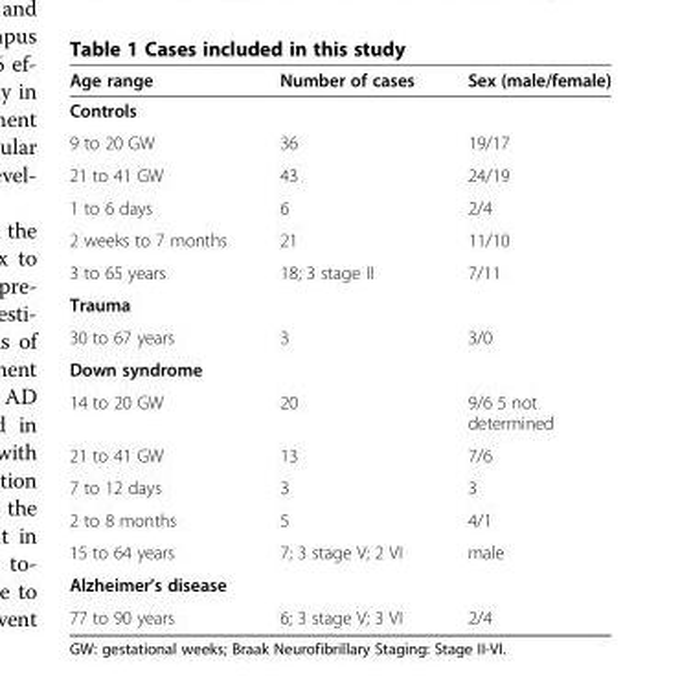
<table><thead><tr><td>Age range</td><td>Number of cases</td><td>Sex (male/female)</td></tr></thead><tbody><tr><td colspan="3">Controls</td></tr><tr><td>9 to 20 GW</td><td>36</td><td>19/17</td></tr><tr><td>21 to 41 GW</td><td>43</td><td>24/19</td></tr><tr><td>1 to 6 days</td><td>6</td><td>2/4</td></tr><tr><td>2 weeks to 7 months</td><td>21</td><td>11/10</td></tr><tr><td>3 to 65 years</td><td>18; 3 stage II</td><td>7/11</td></tr><tr><td colspan="3">Trauma</td></tr><tr><td>30 to 67 years</td><td>3</td><td>3/0</td></tr><tr><td colspan="3">Down syndrome</td></tr><tr><td>14 to 20 GW</td><td>20</td><td>9/6 5 not determined</td></tr><tr><td>21 to 41 GW</td><td>13</td><td>7/6</td></tr><tr><td>7 to 12 days</td><td>3</td><td>3</td></tr><tr><td>2 to 8 months</td><td>5</td><td>4/1</td></tr><tr><td>15 to 64 years</td><td>7; 3 stage V; 2 VI</td><td>male</td></tr><tr><td colspan="3">Alzheimer’s disease</td></tr><tr><td>77 to 90 years</td><td>6; 3 stage V; 3 VI</td><td>2/4</td></tr></tbody></table>